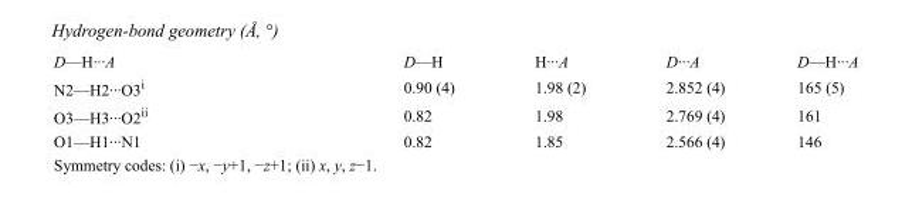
<table><tbody><tr><td>D—H···A</td><td>D—H</td><td>H···A</td><td>D···A</td><td>D—H···A</td></tr><tr><td>N2—H2···O3<sup>i</sup></td><td>0.90 (4)</td><td>1.98 (2)</td><td>2.852 (4)</td><td>165 (5)</td></tr><tr><td>O3—H3···O2<sup>ii</sup></td><td>0.82</td><td>1.98</td><td>2.769 (4)</td><td>161</td></tr><tr><td>O1—H1···N1</td><td>0.82</td><td>1.85</td><td>2.566 (4)</td><td>146</td></tr></tbody></table>